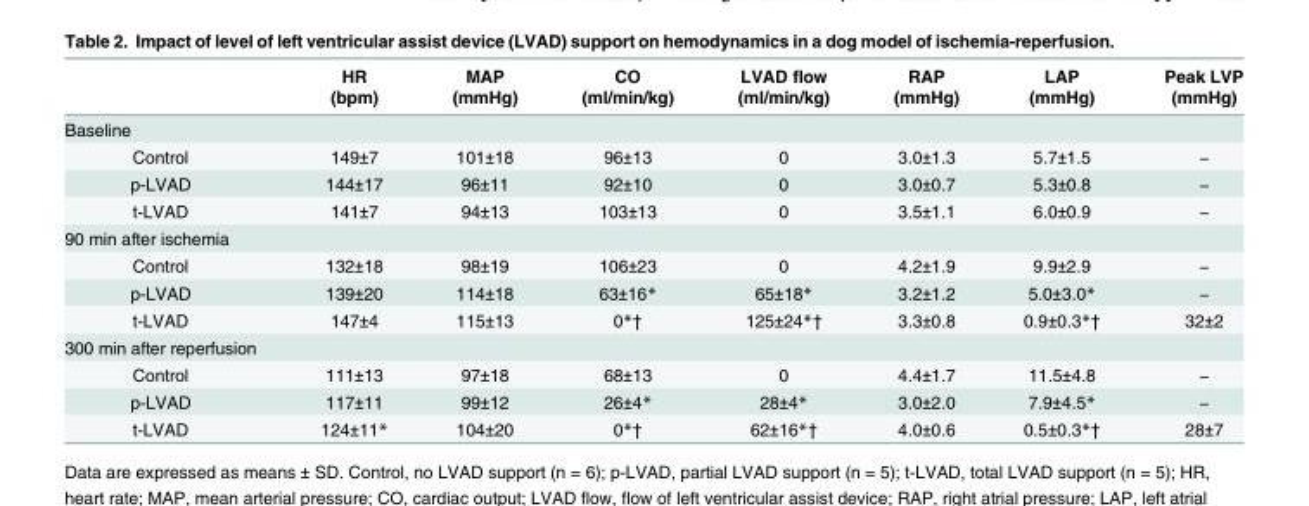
<table><thead><tr><td rowspan="2"></td><td rowspan="2">HR (bpm)</td><td rowspan="2">MAP (mmHg)</td><td rowspan="2">CO (ml/min/kg)</td><td rowspan="2">LVAD flow (ml/min/kg)</td><td rowspan="2">RAP (mmHg)</td><td rowspan="2">LAP (mmHg)</td><td rowspan="2">Peak LVP (mmHg)</td></tr><tr></tr></thead><tbody><tr><td colspan="8">Baseline</td></tr><tr><td>Control</td><td>149±7</td><td>101±18</td><td>96±13</td><td>0</td><td>3.0±1.3</td><td>5.7±1.5</td><td>−</td></tr><tr><td>p-LVAD</td><td>144±17</td><td>96±11</td><td>92±10</td><td>0</td><td>3.0±0.7</td><td>5.3±0.8</td><td>−</td></tr><tr><td>t-LVAD</td><td>141±7</td><td>94±13</td><td>103±13</td><td>0</td><td>3.5±1.1</td><td>6.0±0.9</td><td>−</td></tr><tr><td colspan="8">90 min after ischemia</td></tr><tr><td>Control</td><td>132±18</td><td>98±19</td><td>106±23</td><td>0</td><td>4.2±1.9</td><td>9.9±2.9</td><td>−</td></tr><tr><td>p-LVAD</td><td>139±20</td><td>114±18</td><td>63±16*</td><td>65±18*</td><td>3.2±1.2</td><td>5.0±3.0*</td><td>−</td></tr><tr><td>t-LVAD</td><td>147±4</td><td>115±13</td><td>0*†</td><td>125±24*†</td><td>3.3±0.8</td><td>0.9±0.3*†</td><td>32±2</td></tr><tr><td colspan="8">300 min after reperfusion</td></tr><tr><td>Control</td><td>111±13</td><td>97±18</td><td>68±13</td><td>0</td><td>4.4±1.7</td><td>11.5±4.8</td><td>−</td></tr><tr><td>p-LVAD</td><td>117±11</td><td>99±12</td><td>26±4*</td><td>28±4*</td><td>3.0±2.0</td><td>7.9±4.5*</td><td>−</td></tr><tr><td>t-LVAD</td><td>124±11*</td><td>104±20</td><td>0*†</td><td>62±16*†</td><td>4.0±0.6</td><td>0.5±0.3*†</td><td>28±7</td></tr></tbody></table>